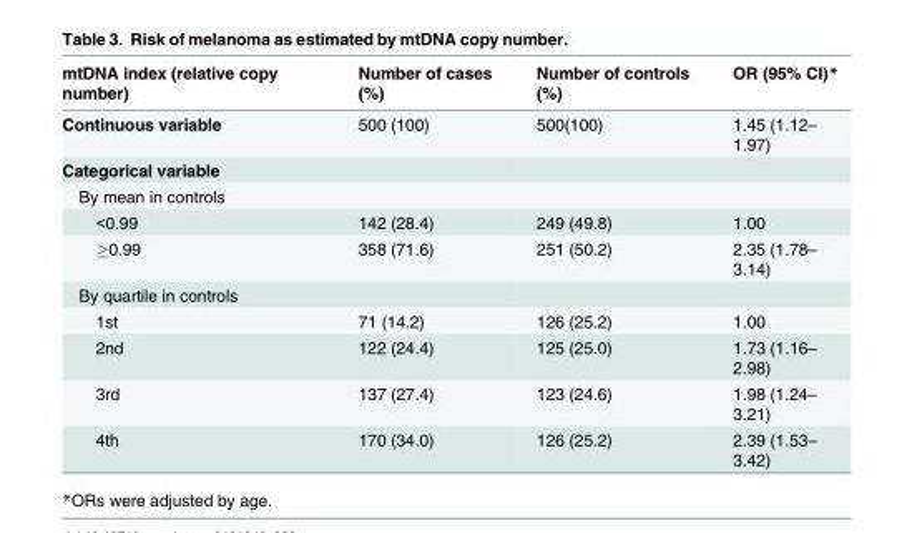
<table><thead><tr><td>mtDNA index (relative copy number)</td><td>Number of cases (%)</td><td>Number of controls (%)</td><td>OR (95% CI)*</td></tr></thead><tbody><tr><td>Continuous variable</td><td>500 (100)</td><td>500(100)</td><td>1.45 (1.12– 1.97)</td></tr><tr><td colspan="4">Categorical variable</td></tr><tr><td colspan="4">By mean in controls</td></tr><tr><td>&lt;0.99</td><td>142 (28.4)</td><td>249 (49.8)</td><td>1.00</td></tr><tr><td>≥0.99</td><td>358 (71.6)</td><td>251 (50.2)</td><td>2.35 (1.78– 3.14)</td></tr><tr><td colspan="4">By quartile in controls</td></tr><tr><td>1st</td><td>71 (14.2)</td><td>126 (25.2)</td><td>1.00</td></tr><tr><td>2nd</td><td>122 (24.4)</td><td>125 (25.0)</td><td>1.73 (1.16– 2.98)</td></tr><tr><td>3rd</td><td>137 (27.4)</td><td>123 (24.6)</td><td>1.98 (1.24– 3.21)</td></tr><tr><td>4th</td><td>170 (34.0)</td><td>126 (25.2)</td><td>2.39 (1.53– 3.42)</td></tr></tbody></table>